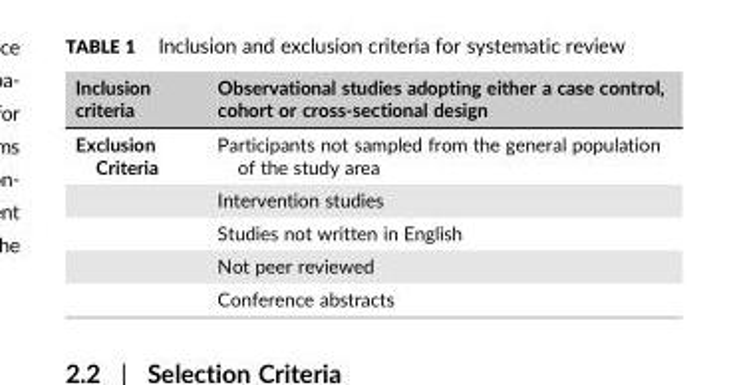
<table><thead><tr><td>Inclusion criteria</td><td>Observational studies adopting either a case control, cohort or cross-sectional design</td></tr></thead><tbody><tr><td rowspan="5">Exclusion Criteria</td><td>Participants not sampled from the general population of the study area</td></tr><tr><td>Intervention studies</td></tr><tr><td>Studies not written in English</td></tr><tr><td>Not peer reviewed</td></tr><tr><td>Conference abstracts</td></tr></tbody></table>